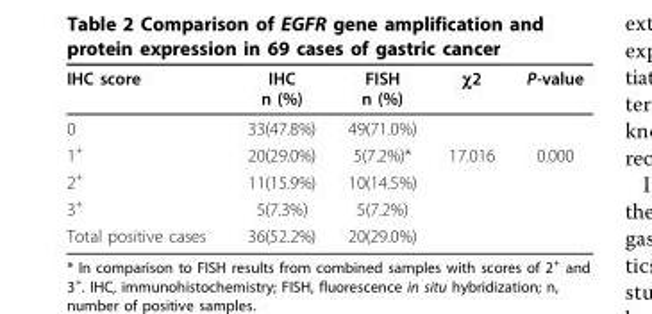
<table><thead><tr><td>IHC score</td><td>IHC n (%)</td><td>FISH n (%)</td><td>χ2</td><td>P-value</td></tr></thead><tbody><tr><td>0</td><td>33(47.8%)</td><td>49(71.0%)</td><td></td><td></td></tr><tr><td>1<sup>+</sup></td><td>20(29.0%)</td><td>5(7.2%)*</td><td>17.016</td><td>0.000</td></tr><tr><td>2<sup>+</sup></td><td>11(15.9%)</td><td>10(14.5%)</td><td></td><td></td></tr><tr><td>3<sup>+</sup></td><td>5(7.3%)</td><td>5(7.2%)</td><td></td><td></td></tr><tr><td>Total positive cases</td><td>36(52.2%)</td><td>20(29.0%)</td><td></td><td></td></tr></tbody></table>